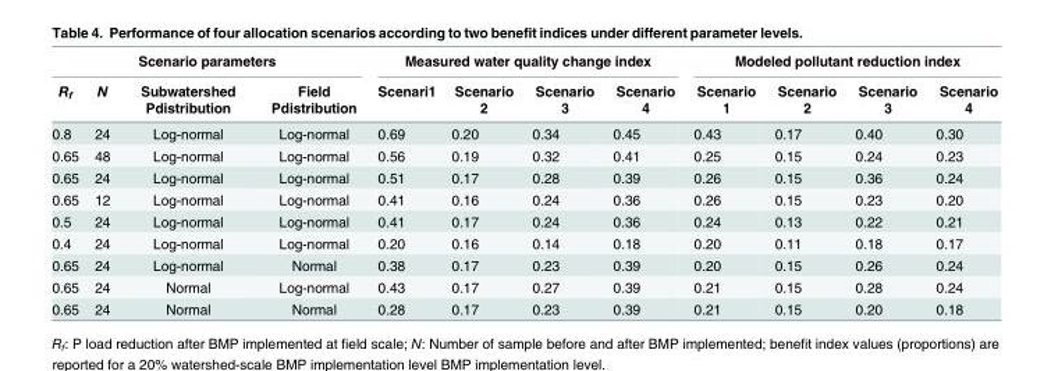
<table><thead><tr><td colspan="4">Scenario parameters</td><td colspan="4">Measured water quality change index</td><td colspan="4">Modeled pollutant reduction index</td></tr><tr><td>R<sub>f</sub></td><td>N</td><td>Subwatershed Pdistribution</td><td>Field Pdistribution</td><td>Scenari1</td><td>Scenario 2</td><td>Scenario 3</td><td>Scenario 4</td><td>Scenario 1</td><td>Scenario 2</td><td>Scenario 3</td><td>Scenario 4</td></tr></thead><tbody><tr><td>0.8</td><td>24</td><td>Log-normal</td><td>Log-normal</td><td>0.69</td><td>0.20</td><td>0.34</td><td>0.45</td><td>0.43</td><td>0.17</td><td>0.40</td><td>0.30</td></tr><tr><td>0.65</td><td>48</td><td>Log-normal</td><td>Log-normal</td><td>0.56</td><td>0.19</td><td>0.32</td><td>0.41</td><td>0.25</td><td>0.15</td><td>0.24</td><td>0.23</td></tr><tr><td>0.65</td><td>24</td><td>Log-normal</td><td>Log-normal</td><td>0.51</td><td>0.17</td><td>0.28</td><td>0.39</td><td>0.26</td><td>0.15</td><td>0.36</td><td>0.24</td></tr><tr><td>0.65</td><td>12</td><td>Log-normal</td><td>Log-normal</td><td>0.41</td><td>0.16</td><td>0.24</td><td>0.36</td><td>0.26</td><td>0.15</td><td>0.23</td><td>0.20</td></tr><tr><td>0.5</td><td>24</td><td>Log-normal</td><td>Log-normal</td><td>0.41</td><td>0.17</td><td>0.24</td><td>0.36</td><td>0.24</td><td>0.13</td><td>0.22</td><td>0.21</td></tr><tr><td>0.4</td><td>24</td><td>Log-normal</td><td>Log-normal</td><td>0.20</td><td>0.16</td><td>0.14</td><td>0.18</td><td>0.20</td><td>0.11</td><td>0.18</td><td>0.17</td></tr><tr><td>0.65</td><td>24</td><td>Log-normal</td><td>Normal</td><td>0.38</td><td>0.17</td><td>0.23</td><td>0.39</td><td>0.20</td><td>0.15</td><td>0.26</td><td>0.24</td></tr><tr><td>0.65</td><td>24</td><td>Normal</td><td>Log-normal</td><td>0.43</td><td>0.17</td><td>0.27</td><td>0.39</td><td>0.21</td><td>0.15</td><td>0.28</td><td>0.24</td></tr><tr><td>0.65</td><td>24</td><td>Normal</td><td>Normal</td><td>0.28</td><td>0.17</td><td>0.23</td><td>0.39</td><td>0.21</td><td>0.15</td><td>0.20</td><td>0.18</td></tr></tbody></table>